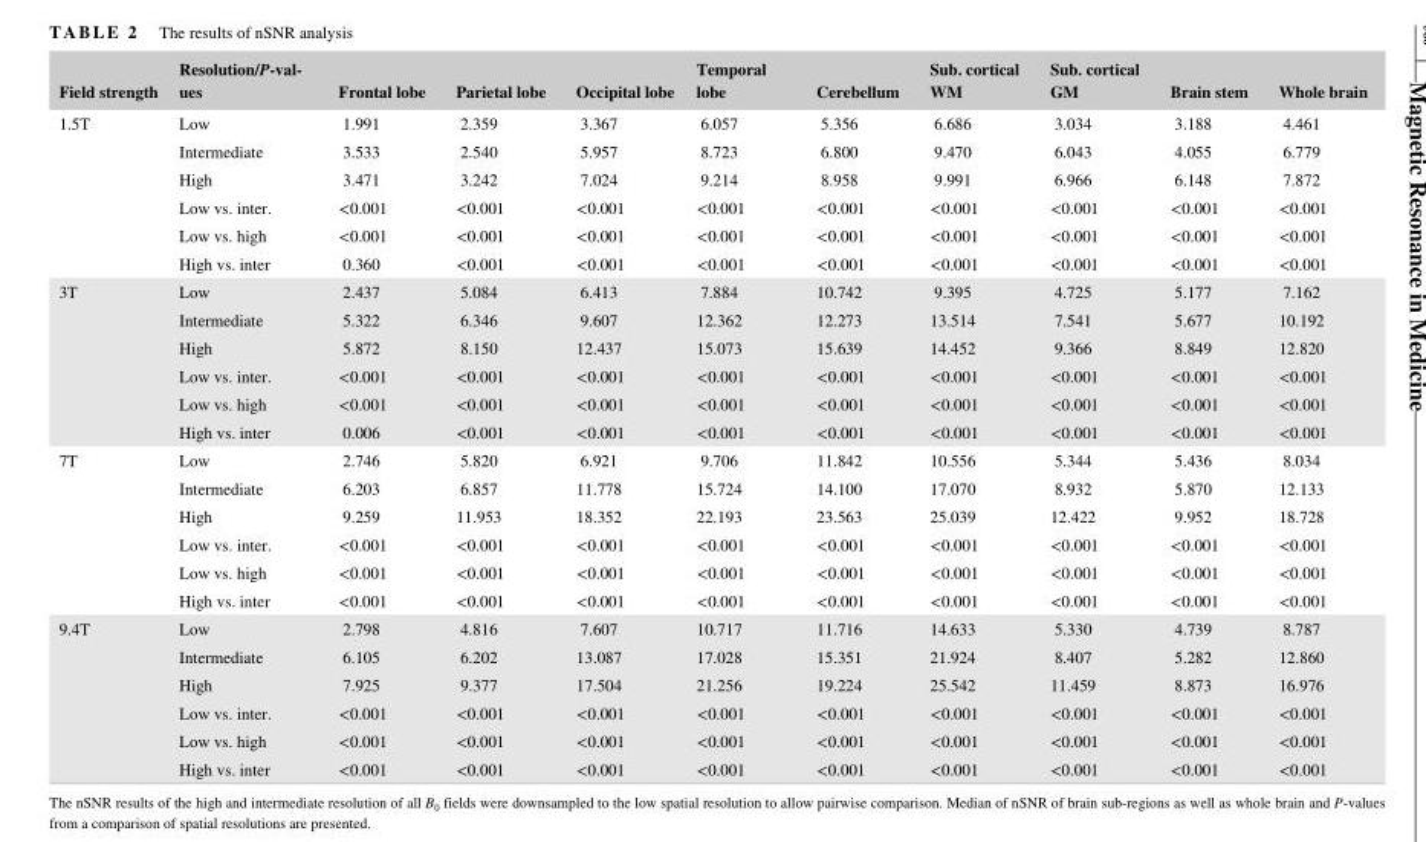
<table><thead><tr><td>Field strength</td><td>Resolution/P‐val- ues</td><td>Frontal lobe</td><td>Parietal lobe</td><td>Occipital lobe</td><td>Temporal lobe</td><td>Cerebellum</td><td>Sub. cortical WM</td><td>Sub. cortical GM</td><td>Brain stem</td><td>Whole brain</td></tr></thead><tbody><tr><td rowspan="6">1.5T</td><td>Low</td><td>1.991</td><td>2.359</td><td>3.367</td><td>6.057</td><td>5.356</td><td>6.686</td><td>3.034</td><td>3.188</td><td>4.461</td></tr><tr><td>Intermediate</td><td>3.533</td><td>2.540</td><td>5.957</td><td>8.723</td><td>6.800</td><td>9.470</td><td>6.043</td><td>4.055</td><td>6.779</td></tr><tr><td>High</td><td>3.471</td><td>3.242</td><td>7.024</td><td>9.214</td><td>8.958</td><td>9.991</td><td>6.966</td><td>6.148</td><td>7.872</td></tr><tr><td>Low vs. inter.</td><td>&lt;0.001</td><td>&lt;0.001</td><td>&lt;0.001</td><td>&lt;0.001</td><td>&lt;0.001</td><td>&lt;0.001</td><td>&lt;0.001</td><td>&lt;0.001</td><td>&lt;0.001</td></tr><tr><td>Low vs. high</td><td>&lt;0.001</td><td>&lt;0.001</td><td>&lt;0.001</td><td>&lt;0.001</td><td>&lt;0.001</td><td>&lt;0.001</td><td>&lt;0.001</td><td>&lt;0.001</td><td>&lt;0.001</td></tr><tr><td>High vs. inter</td><td>0.360</td><td>&lt;0.001</td><td>&lt;0.001</td><td>&lt;0.001</td><td>&lt;0.001</td><td>&lt;0.001</td><td>&lt;0.001</td><td>&lt;0.001</td><td>&lt;0.001</td></tr><tr><td rowspan="6">3T</td><td>Low</td><td>2.437</td><td>5.084</td><td>6.413</td><td>7.884</td><td>10.742</td><td>9.395</td><td>4.725</td><td>5.177</td><td>7.162</td></tr><tr><td>Intermediate</td><td>5.322</td><td>6.346</td><td>9.607</td><td>12.362</td><td>12.273</td><td>13.514</td><td>7.541</td><td>5.677</td><td>10.192</td></tr><tr><td>High</td><td>5.872</td><td>8.150</td><td>12.437</td><td>15.073</td><td>15.639</td><td>14.452</td><td>9.366</td><td>8.849</td><td>12.820</td></tr><tr><td>Low vs. inter.</td><td>&lt;0.001</td><td>&lt;0.001</td><td>&lt;0.001</td><td>&lt;0.001</td><td>&lt;0.001</td><td>&lt;0.001</td><td>&lt;0.001</td><td>&lt;0.001</td><td>&lt;0.001</td></tr><tr><td>Low vs. high</td><td>&lt;0.001</td><td>&lt;0.001</td><td>&lt;0.001</td><td>&lt;0.001</td><td>&lt;0.001</td><td>&lt;0.001</td><td>&lt;0.001</td><td>&lt;0.001</td><td>&lt;0.001</td></tr><tr><td>High vs. inter</td><td>0.006</td><td>&lt;0.001</td><td>&lt;0.001</td><td>&lt;0.001</td><td>&lt;0.001</td><td>&lt;0.001</td><td>&lt;0.001</td><td>&lt;0.001</td><td>&lt;0.001</td></tr><tr><td rowspan="6">7T</td><td>Low</td><td>2.746</td><td>5.820</td><td>6.921</td><td>9.706</td><td>11.842</td><td>10.556</td><td>5.344</td><td>5.436</td><td>8.034</td></tr><tr><td>Intermediate</td><td>6.203</td><td>6.857</td><td>11.778</td><td>15.724</td><td>14.100</td><td>17.070</td><td>8.932</td><td>5.870</td><td>12.133</td></tr><tr><td>High</td><td>9.259</td><td>11.953</td><td>18.352</td><td>22.193</td><td>23.563</td><td>25.039</td><td>12.422</td><td>9.952</td><td>18.728</td></tr><tr><td>Low vs. inter.</td><td>&lt;0.001</td><td>&lt;0.001</td><td>&lt;0.001</td><td>&lt;0.001</td><td>&lt;0.001</td><td>&lt;0.001</td><td>&lt;0.001</td><td>&lt;0.001</td><td>&lt;0.001</td></tr><tr><td>Low vs. high</td><td>&lt;0.001</td><td>&lt;0.001</td><td>&lt;0.001</td><td>&lt;0.001</td><td>&lt;0.001</td><td>&lt;0.001</td><td>&lt;0.001</td><td>&lt;0.001</td><td>&lt;0.001</td></tr><tr><td>High vs. inter</td><td>&lt;0.001</td><td>&lt;0.001</td><td>&lt;0.001</td><td>&lt;0.001</td><td>&lt;0.001</td><td>&lt;0.001</td><td>&lt;0.001</td><td>&lt;0.001</td><td>&lt;0.001</td></tr><tr><td rowspan="6">9.4T</td><td>Low</td><td>2.798</td><td>4.816</td><td>7.607</td><td>10.717</td><td>11.716</td><td>14.633</td><td>5.330</td><td>4.739</td><td>8.787</td></tr><tr><td>Intermediate</td><td>6.105</td><td>6.202</td><td>13.087</td><td>17.028</td><td>15.351</td><td>21.924</td><td>8.407</td><td>5.282</td><td>12.860</td></tr><tr><td>High</td><td>7.925</td><td>9.377</td><td>17.504</td><td>21.256</td><td>19.224</td><td>25.542</td><td>11.459</td><td>8.873</td><td>16.976</td></tr><tr><td>Low vs. inter.</td><td>&lt;0.001</td><td>&lt;0.001</td><td>&lt;0.001</td><td>&lt;0.001</td><td>&lt;0.001</td><td>&lt;0.001</td><td>&lt;0.001</td><td>&lt;0.001</td><td>&lt;0.001</td></tr><tr><td>Low vs. high</td><td>&lt;0.001</td><td>&lt;0.001</td><td>&lt;0.001</td><td>&lt;0.001</td><td>&lt;0.001</td><td>&lt;0.001</td><td>&lt;0.001</td><td>&lt;0.001</td><td>&lt;0.001</td></tr><tr><td>High vs. inter</td><td>&lt;0.001</td><td>&lt;0.001</td><td>&lt;0.001</td><td>&lt;0.001</td><td>&lt;0.001</td><td>&lt;0.001</td><td>&lt;0.001</td><td>&lt;0.001</td><td>&lt;0.001</td></tr></tbody></table>